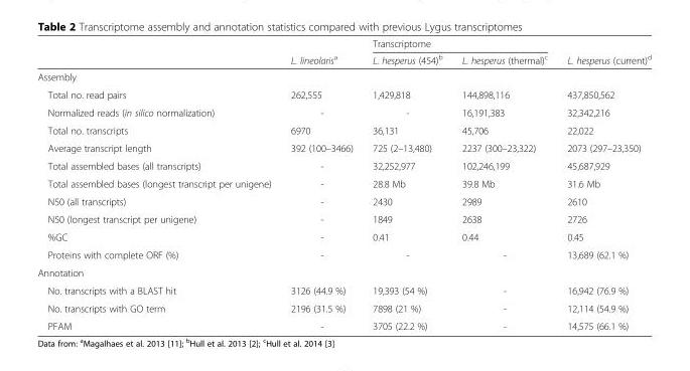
<table><thead><tr><td rowspan="2"></td><td rowspan="2">L. lineolaris<sup>a</sup></td><td colspan="2">Transcriptome</td><td rowspan="2">L. hesperus (current)<sup>d</sup></td></tr><tr><td>L. hesperus (454)<sup>b</sup></td><td>L. hesperus (thermal)<sup>c</sup></td></tr></thead><tbody><tr><td colspan="5">Assembly</td></tr><tr><td>Total no. read pairs</td><td>262,555</td><td>1,429,818</td><td>144,898,116</td><td>437,850,562</td></tr><tr><td>Normalized reads (in silico normalization)</td><td>-</td><td>-</td><td>16,191,383</td><td>32,342,216</td></tr><tr><td>Total no. transcripts</td><td>6970</td><td>36,131</td><td>45,706</td><td>22,022</td></tr><tr><td>Average transcript length</td><td>392 (100–3466)</td><td>725 (2–13,480)</td><td>2237 (300–23,322)</td><td>2073 (297–23,350)</td></tr><tr><td>Total assembled bases (all transcripts)</td><td>-</td><td>32,252,977</td><td>102,246,199</td><td>45,687,929</td></tr><tr><td>Total assembled bases (longest transcript per unigene)</td><td>-</td><td>28.8 Mb</td><td>39.8 Mb</td><td>31.6 Mb</td></tr><tr><td>N50 (all transcripts)</td><td>-</td><td>2430</td><td>2989</td><td>2610</td></tr><tr><td>N50 (longest transcript per unigene)</td><td>-</td><td>1849</td><td>2638</td><td>2726</td></tr><tr><td>%GC</td><td>-</td><td>0.41</td><td>0.44</td><td>0.45</td></tr><tr><td>Proteins with complete ORF (%)</td><td>-</td><td>-</td><td>-</td><td>13,689 (62.1 %)</td></tr><tr><td colspan="5">Annotation</td></tr><tr><td>No. transcripts with a BLAST hit</td><td>3126 (44.9 %)</td><td>19,393 (54 %)</td><td>-</td><td>16,942 (76.9 %)</td></tr><tr><td>No. transcripts with GO term</td><td>2196 (31.5 %)</td><td>7898 (21 %)</td><td>-</td><td>12,114 (54.9 %)</td></tr><tr><td>PFAM</td><td>-</td><td>3705 (22.2 %)</td><td>-</td><td>14,575 (66.1 %)</td></tr></tbody></table>